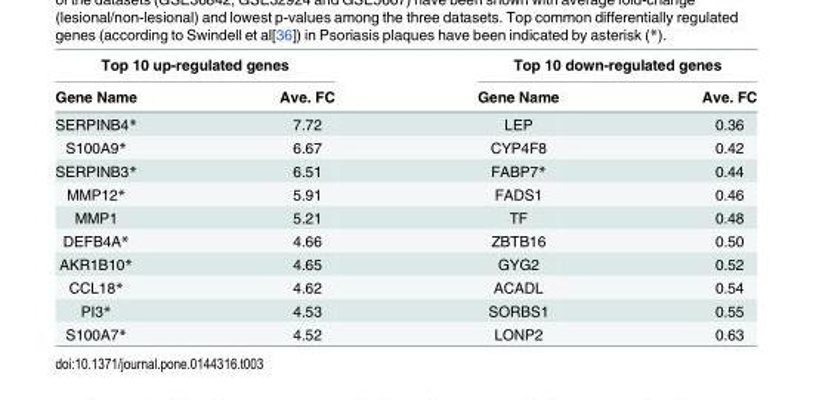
<table><thead><tr><td colspan="2">Top 10 up-regulated genes</td><td colspan="2">Top 10 down-regulated genes</td></tr><tr><td>Gene Name</td><td>Ave. FC</td><td>Gene Name</td><td>Ave. FC</td></tr></thead><tbody><tr><td>SERPINB4*</td><td>7.72</td><td>LEP</td><td>0.36</td></tr><tr><td>S100A9*</td><td>6.67</td><td>CYP4F8</td><td>0.42</td></tr><tr><td>SERPINB3*</td><td>6.51</td><td>FABP7*</td><td>0.44</td></tr><tr><td>MMP12*</td><td>5.91</td><td>FADS1</td><td>0.46</td></tr><tr><td>MMP1</td><td>5.21</td><td>TF</td><td>0.48</td></tr><tr><td>DEFB4A*</td><td>4.66</td><td>ZBTB16</td><td>0.50</td></tr><tr><td>AKR1B10*</td><td>4.65</td><td>GYG2</td><td>0.52</td></tr><tr><td>CCL18*</td><td>4.62</td><td>ACADL</td><td>0.54</td></tr><tr><td>PI3*</td><td>4.53</td><td>SORBS1</td><td>0.55</td></tr><tr><td>S100A7*</td><td>4.52</td><td>LONP2</td><td>0.63</td></tr></tbody></table>